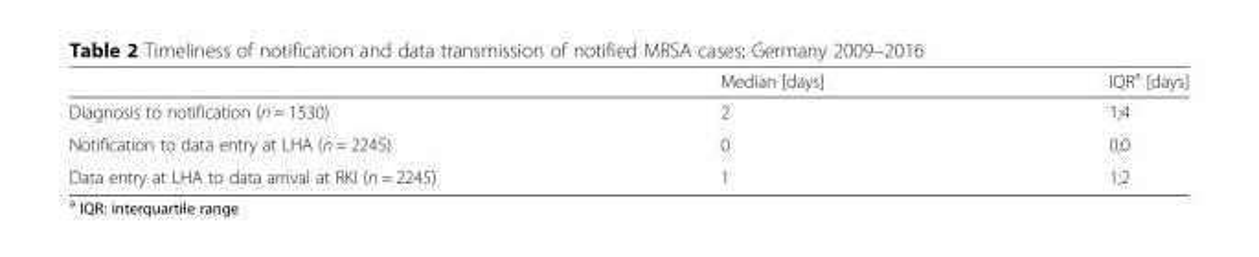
<table><thead><tr><td></td><td>Median [days]</td><td>IQR<sup>a</sup> [days]</td></tr></thead><tbody><tr><td>Diagnosis to notification (n = 1530)</td><td>2</td><td>1;4</td></tr><tr><td>Notification to data entry at LHA (n = 2245)</td><td>0</td><td>0;0</td></tr><tr><td>Data entry at LHA to data arrival at RKI (n = 2245)</td><td>1</td><td>1;2</td></tr></tbody></table>